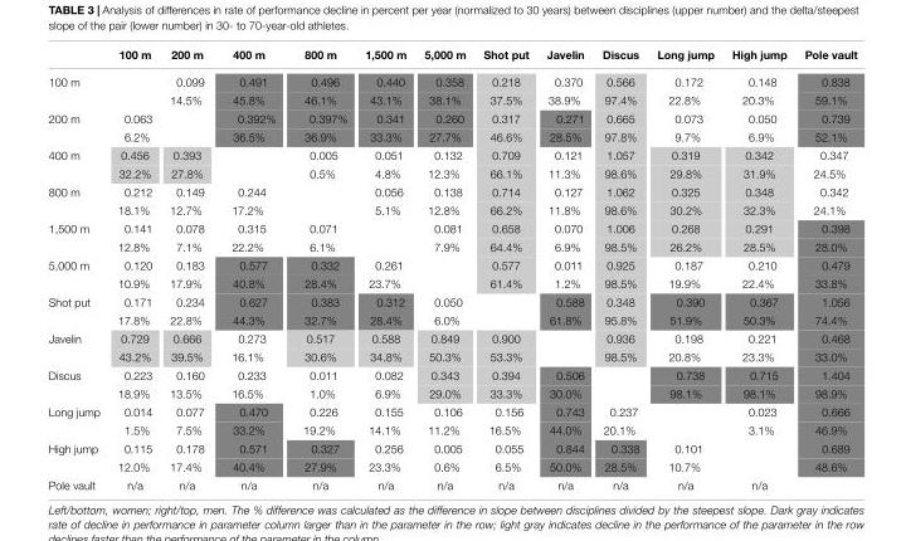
<table><thead><tr><td></td><td>100 m</td><td>200 m</td><td>400 m</td><td>800 m</td><td>1,500 m</td><td>5,000 m</td><td>Shot put</td><td>Javelin</td><td>Discus</td><td>Long jump</td><td>High jump</td><td>Pole vault</td></tr></thead><tbody><tr><td rowspan="2">100 m</td><td></td><td>0.099</td><td>0.491</td><td>0.496</td><td>0.440</td><td>0.358</td><td>0.218</td><td>0.370</td><td>0.566</td><td>0.172</td><td>0.148</td><td>0.838</td></tr><tr><td></td><td>14.5%</td><td>45.8%</td><td>46.1%</td><td>43.1%</td><td>38.1%</td><td>37.5%</td><td>38.9%</td><td>97.4%</td><td>22.8%</td><td>20.3%</td><td>59.1%</td></tr><tr><td rowspan="2">200 m</td><td>0.063</td><td></td><td>0.392%</td><td>0.397%</td><td>0.341</td><td>0.260</td><td>0.317</td><td>0.271</td><td>0.665</td><td>0.073</td><td>0.050</td><td>0.739</td></tr><tr><td>6.2%</td><td></td><td>36.5%</td><td>36.9%</td><td>33.3%</td><td>27.7%</td><td>46.6%</td><td>28.5%</td><td>97.8%</td><td>9.7%</td><td>6.9%</td><td>52.1%</td></tr><tr><td rowspan="2">400 m</td><td>0.456</td><td>0.393</td><td></td><td>0.005</td><td>0.051</td><td>0.132</td><td>0.709</td><td>0.121</td><td>1.057</td><td>0.319</td><td>0.342</td><td>0.347</td></tr><tr><td>32.2%</td><td>27.8%</td><td></td><td>0.5%</td><td>4.8%</td><td>12.3%</td><td>66.1%</td><td>11.3%</td><td>98.6%</td><td>29.8%</td><td>31.9%</td><td>24.5%</td></tr><tr><td rowspan="2">800 m</td><td>0.212</td><td>0.149</td><td>0.244</td><td></td><td>0.056</td><td>0.138</td><td>0.714</td><td>0.127</td><td>1.062</td><td>0.325</td><td>0.348</td><td>0.342</td></tr><tr><td>18.1%</td><td>12.7%</td><td>17.2%</td><td></td><td>5.1%</td><td>12.8%</td><td>66.2%</td><td>11.8%</td><td>98.6%</td><td>30.2%</td><td>32.3%</td><td>24.1%</td></tr><tr><td rowspan="2">1,500 m</td><td>0.141</td><td>0.078</td><td>0.315</td><td>0.071</td><td></td><td>0.081</td><td>0.658</td><td>0.070</td><td>1.006</td><td>0.268</td><td>0.291</td><td>0.398</td></tr><tr><td>12.8%</td><td>7.1%</td><td>22.2%</td><td>6.1%</td><td></td><td>7.9%</td><td>64.4%</td><td>6.9%</td><td>98.5%</td><td>26.2%</td><td>28.5%</td><td>28.0%</td></tr><tr><td rowspan="2">5,000 m</td><td>0.120</td><td>0.183</td><td>0.577</td><td>0.332</td><td>0.261</td><td></td><td>0.577</td><td>0.011</td><td>0.925</td><td>0.187</td><td>0.210</td><td>0.479</td></tr><tr><td>10.9%</td><td>17.9%</td><td>40.8%</td><td>28.4%</td><td>23.7%</td><td></td><td>61.4%</td><td>1.2%</td><td>98.5%</td><td>19.9%</td><td>22.4%</td><td>33.8%</td></tr><tr><td rowspan="2">Shot put</td><td>0.171</td><td>0.234</td><td>0.627</td><td>0.383</td><td>0.312</td><td>0.050</td><td></td><td>0.588</td><td>0.348</td><td>0.390</td><td>0.367</td><td>1.056</td></tr><tr><td>17.8%</td><td>22.8%</td><td>44.3%</td><td>32.7%</td><td>28.4%</td><td>6.0%</td><td></td><td>61.8%</td><td>95.8%</td><td>51.9%</td><td>50.3%</td><td>74.4%</td></tr><tr><td rowspan="2">Javelin</td><td>0.729</td><td>0.666</td><td>0.273</td><td>0.517</td><td>0.588</td><td>0.849</td><td>0.900</td><td></td><td>0.936</td><td>0.198</td><td>0.221</td><td>0.468</td></tr><tr><td>43.2%</td><td>39.5%</td><td>16.1%</td><td>30.6%</td><td>34.8%</td><td>50.3%</td><td>53.3%</td><td></td><td>98.5%</td><td>20.8%</td><td>23.3%</td><td>33.0%</td></tr><tr><td rowspan="2">Discus</td><td>0.223</td><td>0.160</td><td>0.233</td><td>0.011</td><td>0.082</td><td>0.343</td><td>0.394</td><td>0.506</td><td></td><td>0.738</td><td>0.715</td><td>1.404</td></tr><tr><td>18.9%</td><td>13.5%</td><td>16.5%</td><td>1.0%</td><td>6.9%</td><td>29.0%</td><td>33.3%</td><td>30.0%</td><td></td><td>98.1%</td><td>98.1%</td><td>98.9%</td></tr><tr><td rowspan="2">Long jump</td><td>0.014</td><td>0.077</td><td>0.470</td><td>0.226</td><td>0.155</td><td>0.106</td><td>0.156</td><td>0.743</td><td>0.237</td><td></td><td>0.023</td><td>0.666</td></tr><tr><td>1.5%</td><td>7.5%</td><td>33.2%</td><td>19.2%</td><td>14.1%</td><td>11.2%</td><td>16.5%</td><td>44.0%</td><td>20.1%</td><td></td><td>3.1%</td><td>46.9%</td></tr><tr><td rowspan="2">High jump</td><td>0.115</td><td>0.178</td><td>0.571</td><td>0.327</td><td>0.256</td><td>0.005</td><td>0.055</td><td>0.844</td><td>0.338</td><td>0.101</td><td></td><td>0.689</td></tr><tr><td>12.0%</td><td>17.4%</td><td>40.4%</td><td>27.9%</td><td>23.3%</td><td>0.6%</td><td>6.5%</td><td>50.0%</td><td>28.5%</td><td>10.7%</td><td></td><td>48.6%</td></tr><tr><td>Pole vault</td><td>n/a</td><td>n/a</td><td>n/a</td><td>n/a</td><td>n/a</td><td>n/a</td><td>n/a</td><td>n/a</td><td>n/a</td><td>n/a</td><td>n/a</td><td></td></tr></tbody></table>